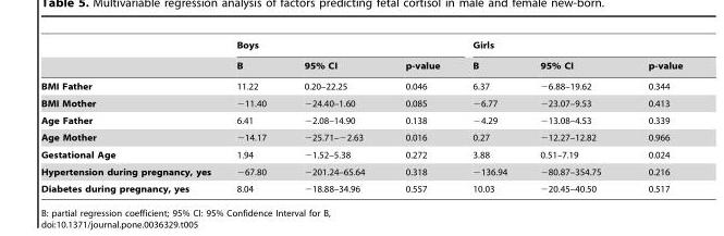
<table><thead><tr><td rowspan="2"></td><td colspan="3">Boys</td><td colspan="3">Girls</td></tr><tr><td>B</td><td>95% CI</td><td>p-value</td><td>B</td><td>95% CI</td><td>p-value</td></tr></thead><tbody><tr><td>BMI Father</td><td>11.22</td><td>0.20–22.25</td><td>0.046</td><td>6.37</td><td>−6.88–19.62</td><td>0.344</td></tr><tr><td>BMI Mother</td><td>−11.40</td><td>−24.40–1.60</td><td>0.085</td><td>−6.77</td><td>−23.07–9.53</td><td>0.413</td></tr><tr><td>Age Father</td><td>6.41</td><td>−2.08–14.90</td><td>0.138</td><td>−4.29</td><td>−13.08–4.53</td><td>0.339</td></tr><tr><td>Age Mother</td><td>−14.17</td><td>−25.71–−2.63</td><td>0.016</td><td>0.27</td><td>−12.27–12.82</td><td>0.966</td></tr><tr><td>Gestational Age</td><td>1.94</td><td>−1.52–5.38</td><td>0.272</td><td>3.88</td><td>0.51–7.19</td><td>0.024</td></tr><tr><td>Hypertension during pregnancy, yes</td><td>−67.80</td><td>−201.24–65.64</td><td>0.318</td><td>−136.94</td><td>−80.87–354.75</td><td>0.216</td></tr><tr><td>Diabetes during pregnancy, yes</td><td>8.04</td><td>−18.88–34.96</td><td>0.557</td><td>10.03</td><td>−20.45–40.50</td><td>0.517</td></tr></tbody></table>